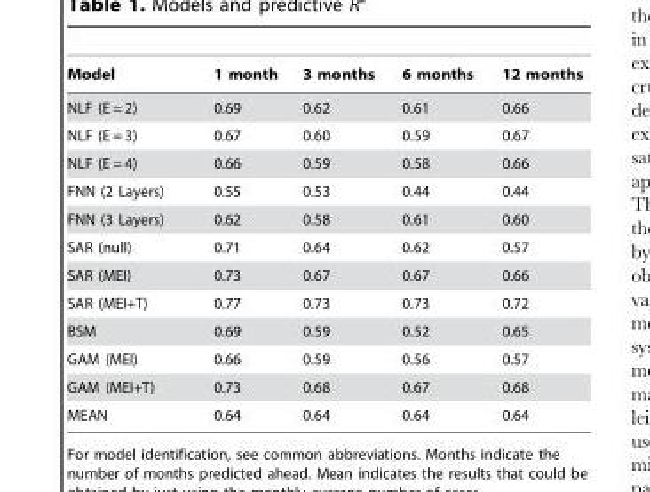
<table><thead><tr><td>Model</td><td>1 month</td><td>3 months</td><td>6 months</td><td>12 months</td></tr></thead><tbody><tr><td>NLF (E = 2)</td><td>0.69</td><td>0.62</td><td>0.61</td><td>0.66</td></tr><tr><td>NLF (E = 3)</td><td>0.67</td><td>0.60</td><td>0.59</td><td>0.67</td></tr><tr><td>NLF (E = 4)</td><td>0.66</td><td>0.59</td><td>0.58</td><td>0.66</td></tr><tr><td>FNN (2 Layers)</td><td>0.55</td><td>0.53</td><td>0.44</td><td>0.44</td></tr><tr><td>FNN (3 Layers)</td><td>0.62</td><td>0.58</td><td>0.61</td><td>0.60</td></tr><tr><td>SAR (null)</td><td>0.71</td><td>0.64</td><td>0.62</td><td>0.57</td></tr><tr><td>SAR (MEI)</td><td>0.73</td><td>0.67</td><td>0.67</td><td>0.66</td></tr><tr><td>SAR (MEI+T)</td><td>0.77</td><td>0.73</td><td>0.73</td><td>0.72</td></tr><tr><td>BSM</td><td>0.69</td><td>0.59</td><td>0.52</td><td>0.65</td></tr><tr><td>GAM (MEI)</td><td>0.66</td><td>0.59</td><td>0.56</td><td>0.57</td></tr><tr><td>GAM (MEI+T)</td><td>0.73</td><td>0.68</td><td>0.67</td><td>0.68</td></tr><tr><td>MEAN</td><td>0.64</td><td>0.64</td><td>0.64</td><td>0.64</td></tr></tbody></table>